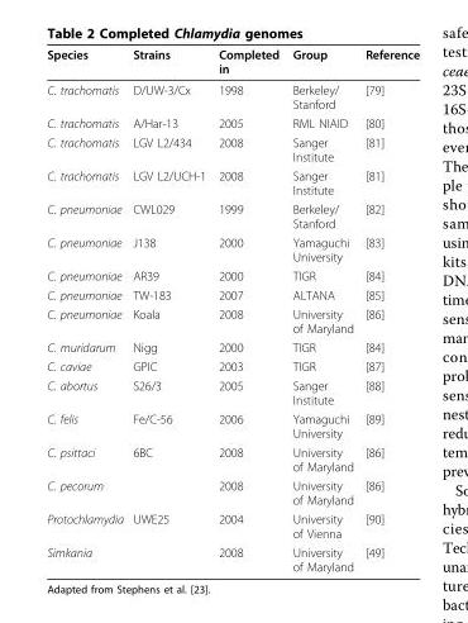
<table><thead><tr><td>Species</td><td>Strains</td><td>Completed in</td><td>Group</td><td>Reference</td></tr></thead><tbody><tr><td>C. trachomatis</td><td>D/UW-3/Cx</td><td>1998</td><td>Berkeley/ Stanford</td><td>[79]</td></tr><tr><td>C. trachomatis</td><td>A/Har-13</td><td>2005</td><td>RML NIAID</td><td>[80]</td></tr><tr><td>C. trachomatis</td><td>LGV L2/434</td><td>2008</td><td>Sanger Institute</td><td>[81]</td></tr><tr><td>C. trachomatis</td><td>LGV L2/UCH-1</td><td>2008</td><td>Sanger Institute</td><td>[81]</td></tr><tr><td>C. pneumoniae</td><td>CWL029</td><td>1999</td><td>Berkeley/ Stanford</td><td>[82]</td></tr><tr><td>C. pneumoniae</td><td>J138</td><td>2000</td><td>Yamaguchi University</td><td>[83]</td></tr><tr><td>C. pneumoniae</td><td>AR39</td><td>2000</td><td>TIGR</td><td>[84]</td></tr><tr><td>C. pneumoniae</td><td>TW-183</td><td>2007</td><td>ALTANA</td><td>[85]</td></tr><tr><td>C. pneumoniae</td><td>Koala</td><td>2008</td><td>University of Maryland</td><td>[86]</td></tr><tr><td>C. muridarum</td><td>Nigg</td><td>2000</td><td>TIGR</td><td>[84]</td></tr><tr><td>C. caviae</td><td>GPIC</td><td>2003</td><td>TIGR</td><td>[87]</td></tr><tr><td>C. abortus</td><td>S26/3</td><td>2005</td><td>Sanger Institute</td><td>[88]</td></tr><tr><td>C. felis</td><td>Fe/C-56</td><td>2006</td><td>Yamaguchi University</td><td>[89]</td></tr><tr><td>C. psittaci</td><td>6BC</td><td>2008</td><td>University of Maryland</td><td>[86]</td></tr><tr><td>C. pecorum</td><td></td><td>2008</td><td>University of Maryland</td><td>[86]</td></tr><tr><td>Protochlamydia</td><td>UWE25</td><td>2004</td><td>University of Vienna</td><td>[90]</td></tr><tr><td>Simkania</td><td></td><td>2008</td><td>University of Maryland</td><td>[49]</td></tr></tbody></table>